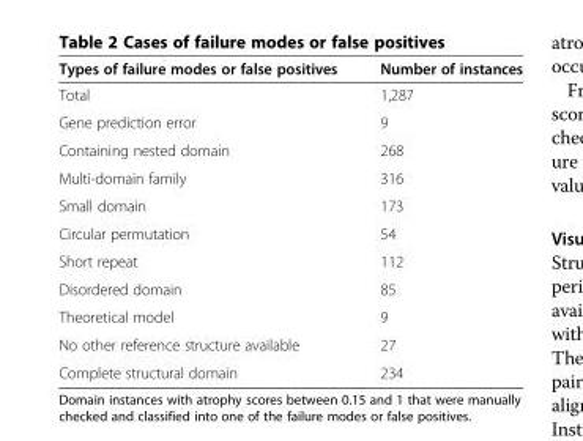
<table><thead><tr><td>Types of failure modes or false positives</td><td>Number of instances</td></tr></thead><tbody><tr><td>Total</td><td>1,287</td></tr><tr><td>Gene prediction error</td><td>9</td></tr><tr><td>Containing nested domain</td><td>268</td></tr><tr><td>Multi-domain family</td><td>316</td></tr><tr><td>Small domain</td><td>173</td></tr><tr><td>Circular permutation</td><td>54</td></tr><tr><td>Short repeat</td><td>112</td></tr><tr><td>Disordered domain</td><td>85</td></tr><tr><td>Theoretical model</td><td>9</td></tr><tr><td>No other reference structure available</td><td>27</td></tr><tr><td>Complete structural domain</td><td>234</td></tr></tbody></table>